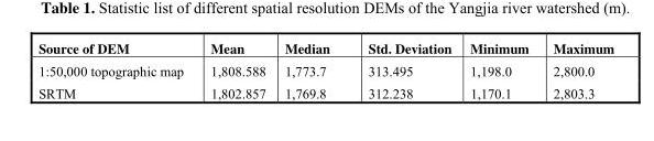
<table><thead><tr><td>Source of DEM</td><td>Mean</td><td>Median</td><td>Std. Deviation</td><td>Minimum</td><td>Maximum</td></tr></thead><tbody><tr><td>1:50,000 topographic map</td><td>1,808.588</td><td>1,773.7</td><td>313.495</td><td>1,198.0</td><td>2,800.0</td></tr><tr><td>SRTM</td><td>1,802.857</td><td>1,769.8</td><td>312.238</td><td>1,170.1</td><td>2,803.3</td></tr></tbody></table>